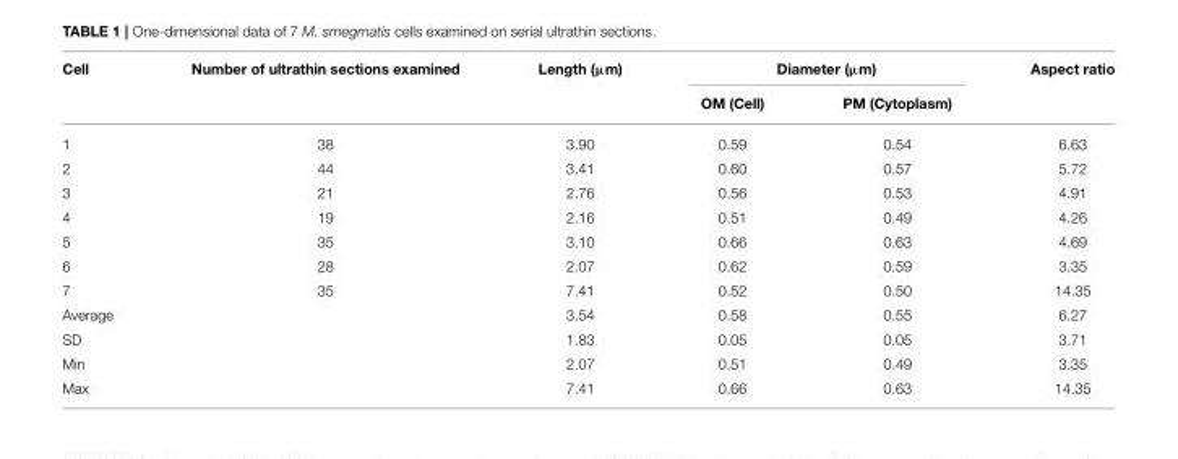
<table><thead><tr><td rowspan="2">Cell</td><td rowspan="2">Number of ultrathin sections examined</td><td rowspan="2">Length (µm)</td><td colspan="2">Diameter (µm)</td><td rowspan="2">Aspect ratio</td></tr><tr><td>OM (Cell)</td><td>PM (Cytoplasm)</td></tr></thead><tbody><tr><td>1</td><td>38</td><td>3.90</td><td>0.59</td><td>0.54</td><td>6.63</td></tr><tr><td>2</td><td>44</td><td>3.41</td><td>0.60</td><td>0.57</td><td>5.72</td></tr><tr><td>3</td><td>21</td><td>2.76</td><td>0.56</td><td>0.53</td><td>4.91</td></tr><tr><td>4</td><td>19</td><td>2.16</td><td>0.51</td><td>0.49</td><td>4.26</td></tr><tr><td>5</td><td>35</td><td>3.10</td><td>0.66</td><td>0.63</td><td>4.69</td></tr><tr><td>6</td><td>28</td><td>2.07</td><td>0.62</td><td>0.59</td><td>3.35</td></tr><tr><td>7</td><td>35</td><td>7.41</td><td>0.52</td><td>0.50</td><td>14.35</td></tr><tr><td>Average</td><td></td><td>3.54</td><td>0.58</td><td>0.55</td><td>6.27</td></tr><tr><td>SD</td><td></td><td>1.83</td><td>0.05</td><td>0.05</td><td>3.71</td></tr><tr><td>Min</td><td></td><td>2.07</td><td>0.51</td><td>0.49</td><td>3.35</td></tr><tr><td>Max</td><td></td><td>7.41</td><td>0.66</td><td>0.63</td><td>14.35</td></tr></tbody></table>